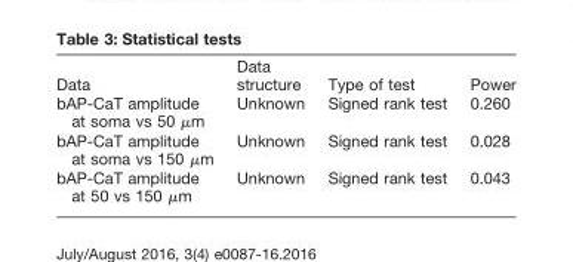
<table><thead><tr><td>Data</td><td>Data structure</td><td>Type of test</td><td>Power</td></tr></thead><tbody><tr><td>bAP-CaT amplitude at soma vs 50 μm</td><td>Unknown</td><td>Signed rank test</td><td>0.260</td></tr><tr><td>bAP-CaT amplitude at soma vs 150 μm</td><td>Unknown</td><td>Signed rank test</td><td>0.028</td></tr><tr><td>bAP-CaT amplitude at 50 vs 150 μm</td><td>Unknown</td><td>Signed rank test</td><td>0.043</td></tr></tbody></table>